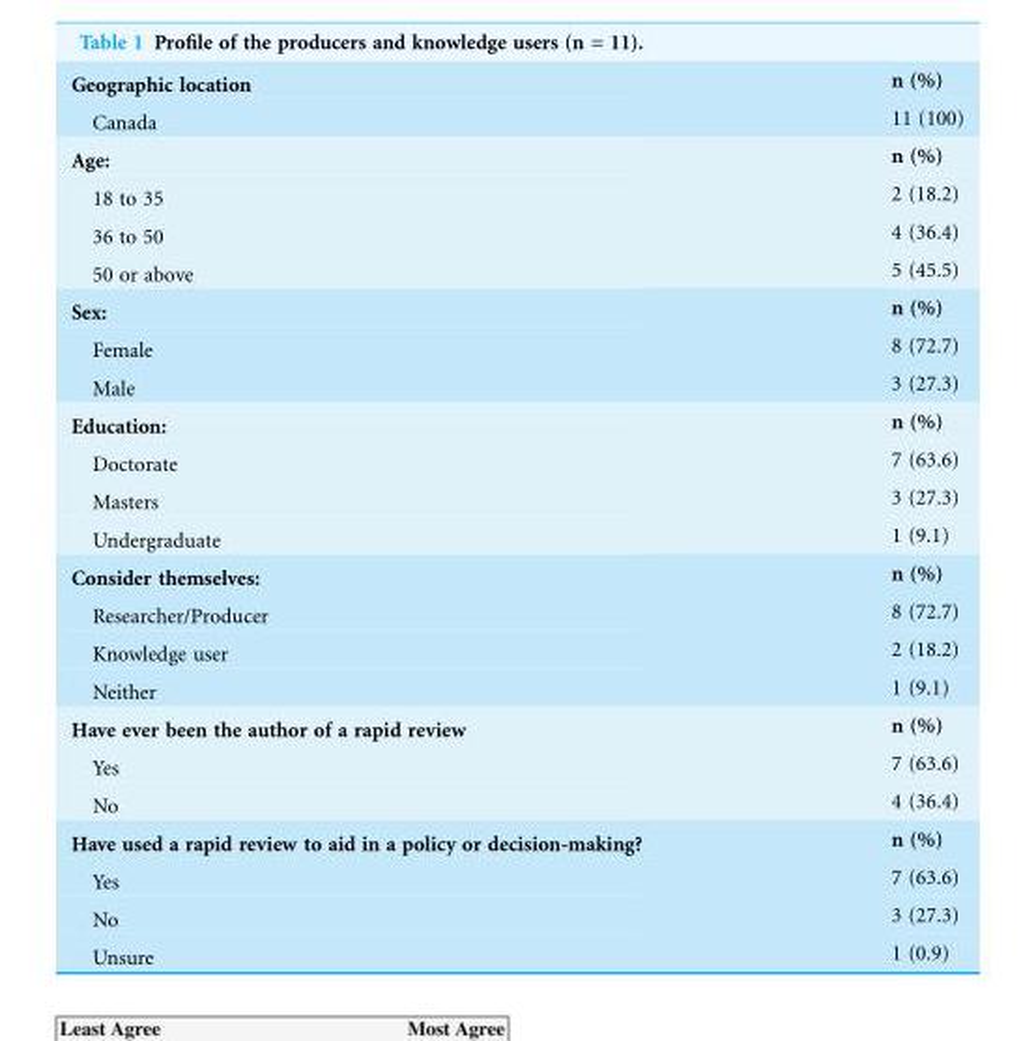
<table><tbody><tr><td>Geographic location</td><td>n (%)</td></tr><tr><td>Canada</td><td>11 (100)</td></tr><tr><td>Age:</td><td>n (%)</td></tr><tr><td>18 to 35</td><td>2 (18.2)</td></tr><tr><td>36 to 50</td><td>4 (36.4)</td></tr><tr><td>50 or above</td><td>5 (45.5)</td></tr><tr><td>Sex:</td><td>n (%)</td></tr><tr><td>Female</td><td>8 (72.7)</td></tr><tr><td>Male</td><td>3 (27.3)</td></tr><tr><td>Education:</td><td>n (%)</td></tr><tr><td>Doctorate</td><td>7 (63.6)</td></tr><tr><td>Masters</td><td>3 (27.3)</td></tr><tr><td>Undergraduate</td><td>1 (9.1)</td></tr><tr><td>Consider themselves:</td><td>n (%)</td></tr><tr><td>Researcher/Producer</td><td>8 (72.7)</td></tr><tr><td>Knowledge user</td><td>2 (18.2)</td></tr><tr><td>Neither</td><td>1 (9.1)</td></tr><tr><td>Have ever been the author of a rapid review</td><td>n (%)</td></tr><tr><td>Yes</td><td>7 (63.6)</td></tr><tr><td>No</td><td>4 (36.4)</td></tr><tr><td>Have used a rapid review to aid in a policy or decision-making?</td><td>n (%)</td></tr><tr><td>Yes</td><td>7 (63.6)</td></tr><tr><td>No</td><td>3 (27.3)</td></tr><tr><td>Unsure</td><td>1 (0.9)</td></tr></tbody></table>